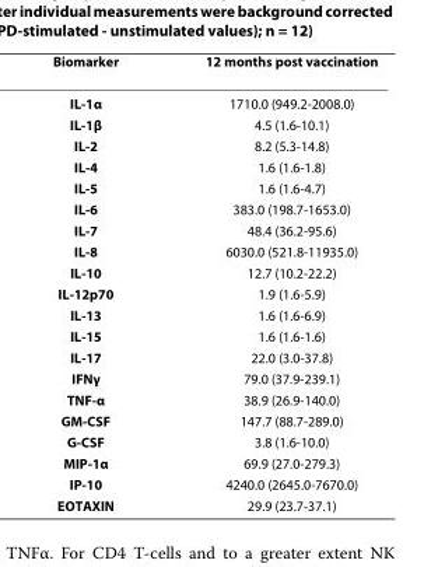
<table><thead><tr><td>Biomarker</td><td>12 months post vaccination</td></tr></thead><tbody><tr><td>IL-1α</td><td>1710.0 (949.2-2008.0)</td></tr><tr><td>IL-1β</td><td>4.5 (1.6-10.1)</td></tr><tr><td>IL-2</td><td>8.2 (5.3-14.8)</td></tr><tr><td>IL-4</td><td>1.6 (1.6-1.8)</td></tr><tr><td>IL-5</td><td>1.6 (1.6-4.7)</td></tr><tr><td>IL-6</td><td>383.0 (198.7-1653.0)</td></tr><tr><td>IL-7</td><td>48.4 (36.2-95.6)</td></tr><tr><td>IL-8</td><td>6030.0 (521.8-11935.0)</td></tr><tr><td>IL-10</td><td>12.7 (10.2-22.2)</td></tr><tr><td>IL-12p70</td><td>1.9 (1.6-5.9)</td></tr><tr><td>IL-13</td><td>1.6 (1.6-6.9)</td></tr><tr><td>IL-15</td><td>1.6 (1.6-1.6)</td></tr><tr><td>IL-17</td><td>22.0 (3.0-37.8)</td></tr><tr><td>IFNγ</td><td>79.0 (37.9-239.1)</td></tr><tr><td>TNF-α</td><td>38.9 (26.9-140.0)</td></tr><tr><td>GM-CSF</td><td>147.7 (88.7-289.0)</td></tr><tr><td>G-CSF</td><td>3.8 (1.6-10.0)</td></tr><tr><td>MIP-1α</td><td>69.9 (27.0-279.3)</td></tr><tr><td>IP-10</td><td>4240.0 (2645.0-7670.0)</td></tr><tr><td>EOTAXIN</td><td>29.9 (23.7-37.1)</td></tr></tbody></table>